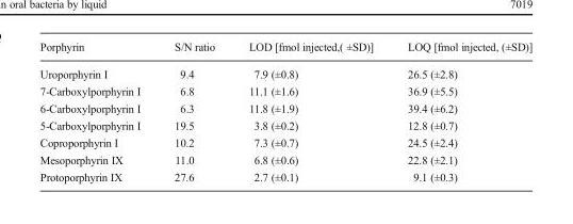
<table><thead><tr><td>Porphyrin</td><td>S/N ratio</td><td>LOD [fmol injected,( ±SD)]</td><td>LOQ [fmol injected, (±SD)]</td></tr></thead><tbody><tr><td>Uroporphyrin I</td><td>9.4</td><td>7.9 (±0.8)</td><td>26.5 (±2.8)</td></tr><tr><td>7-Carboxylporphyrin I</td><td>6.8</td><td>11.1 (±1.6)</td><td>36.9 (±5.5)</td></tr><tr><td>6-Carboxylporphyrin I</td><td>6.3</td><td>11.8 (±1.9)</td><td>39.4 (±6.2)</td></tr><tr><td>5-Carboxylporphyrin I</td><td>19.5</td><td>3.8 (±0.2)</td><td>12.8 (±0.7)</td></tr><tr><td>Coproporphyrin I</td><td>10.2</td><td>7.3 (±0.7)</td><td>24.5 (±2.4)</td></tr><tr><td>Mesoporphyrin IX</td><td>11.0</td><td>6.8 (±0.6)</td><td>22.8 (±2.1)</td></tr><tr><td>Protoporphyrin IX</td><td>27.6</td><td>2.7 (±0.1)</td><td>9.1 (±0.3)</td></tr></tbody></table>